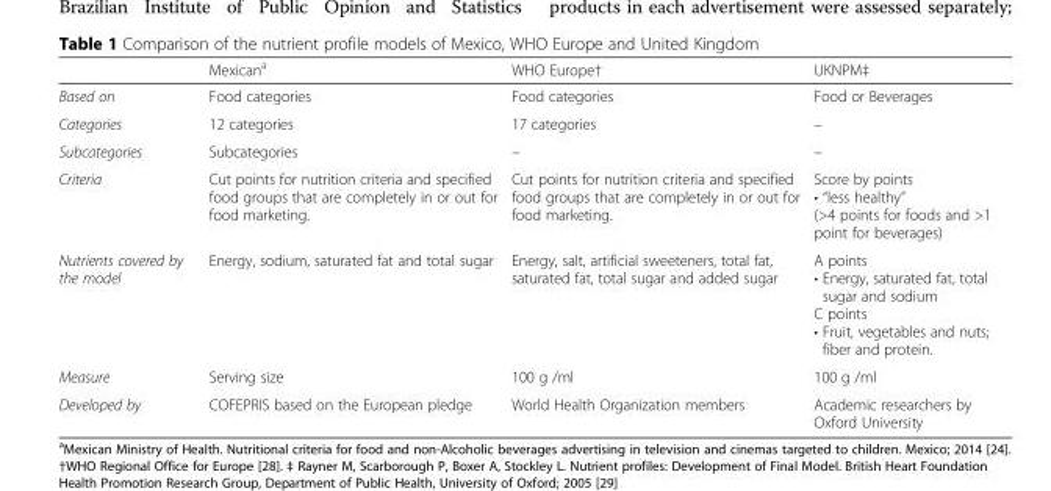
<table><thead><tr><td></td><td>Mexican<sup>a</sup></td><td>WHO Europe†</td><td>UKNPM‡</td></tr></thead><tbody><tr><td>Based on</td><td>Food categories</td><td>Food categories</td><td>Food or Beverages</td></tr><tr><td>Categories</td><td>12 categories</td><td>17 categories</td><td>–</td></tr><tr><td>Subcategories</td><td>Subcategories</td><td>–</td><td>–</td></tr><tr><td>Criteria</td><td>Cut points for nutrition criteria and specified food groups that are completely in or out for food marketing.</td><td>Cut points for nutrition criteria and specified food groups that are completely in or out for food marketing.</td><td>Score by points • “less healthy” (&gt;4 points for foods and &gt;1 point for beverages)</td></tr><tr><td>Nutrients covered by the model</td><td>Energy, sodium, saturated fat and total sugar</td><td>Energy, salt, artificial sweeteners, total fat, saturated fat, total sugar and added sugar</td><td>A points • Energy, saturated fat, total sugar and sodium C points • Fruit, vegetables and nuts; fiber and protein.</td></tr><tr><td>Measure</td><td>Serving size</td><td>100 g /ml</td><td>100 g /ml</td></tr><tr><td>Developed by</td><td>COFEPRIS based on the European pledge</td><td>World Health Organization members</td><td>Academic researchers by Oxford University</td></tr></tbody></table>